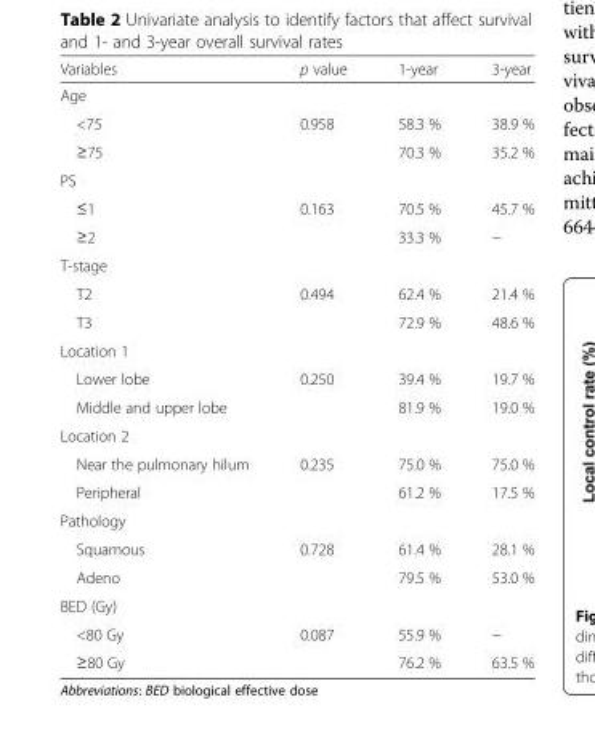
<table><thead><tr><td>Variables</td><td>p value</td><td>1-year</td><td>3-year</td></tr></thead><tbody><tr><td colspan="4">Age</td></tr><tr><td>&lt;75</td><td>0.958</td><td>58.3 %</td><td>38.9 %</td></tr><tr><td>≥75</td><td></td><td>70.3 %</td><td>35.2 %</td></tr><tr><td colspan="4">PS</td></tr><tr><td>≤1</td><td>0.163</td><td>70.5 %</td><td>45.7 %</td></tr><tr><td>≥2</td><td></td><td>33.3 %</td><td>−</td></tr><tr><td colspan="4">T-stage</td></tr><tr><td>T2</td><td>0.494</td><td>62.4 %</td><td>21.4 %</td></tr><tr><td>T3</td><td></td><td>72.9 %</td><td>48.6 %</td></tr><tr><td colspan="4">Location 1</td></tr><tr><td>Lower lobe</td><td>0.250</td><td>39.4 %</td><td>19.7 %</td></tr><tr><td>Middle and upper lobe</td><td></td><td>81.9 %</td><td>19.0 %</td></tr><tr><td colspan="4">Location 2</td></tr><tr><td>Near the pulmonary hilum</td><td>0.235</td><td>75.0 %</td><td>75.0 %</td></tr><tr><td>Peripheral</td><td></td><td>61.2 %</td><td>17.5 %</td></tr><tr><td colspan="4">Pathology</td></tr><tr><td>Squamous</td><td>0.728</td><td>61.4 %</td><td>28.1 %</td></tr><tr><td>Adeno</td><td></td><td>79.5 %</td><td>53.0 %</td></tr><tr><td colspan="4">BED (Gy)</td></tr><tr><td>&lt;80 Gy</td><td>0.087</td><td>55.9 %</td><td>−</td></tr><tr><td>≥80 Gy</td><td></td><td>76.2 %</td><td>63.5 %</td></tr></tbody></table>